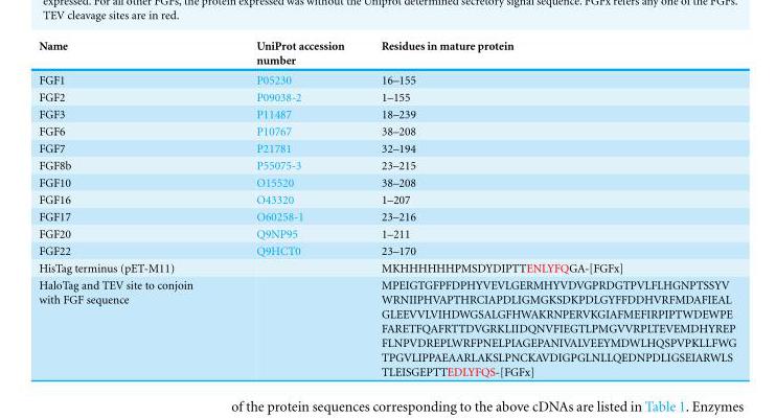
<table><thead><tr><td>Name</td><td>UniProt accession number</td><td>Residues in mature protein</td></tr></thead><tbody><tr><td>FGF1</td><td>P05230</td><td>16–155</td></tr><tr><td>FGF2</td><td>P09038-2</td><td>1–155</td></tr><tr><td>FGF3</td><td>P11487</td><td>18–239</td></tr><tr><td>FGF6</td><td>P10767</td><td>38–208</td></tr><tr><td>FGF7</td><td>P21781</td><td>32–194</td></tr><tr><td>FGF8b</td><td>P55075-3</td><td>23–215</td></tr><tr><td>FGF10</td><td>O15520</td><td>38–208</td></tr><tr><td>FGF16</td><td>O43320</td><td>1–207</td></tr><tr><td>FGF17</td><td>O60258-1</td><td>23–216</td></tr><tr><td>FGF20</td><td>Q9NP95</td><td>1–211</td></tr><tr><td>FGF22</td><td>Q9HCT0</td><td>23–170</td></tr><tr><td>HisTag terminus (pET-M11)</td><td></td><td>MKHHHHHHPMSDYDIPTTENLYFQGA-[FGFx]</td></tr><tr><td>HaloTag and TEV site to conjoin with FGF sequence</td><td></td><td>MPEIGTGFPFDPHYVEVLGERMHYVDVGPRDGTPVLFLHGNPTSSYV WRNIIPHVAPTHRCIAPDLIGMGKSDKPDLGYFFDDHVRFMDAFIEAL GLEEVVLVIHDWGSALGFHWAKRNPERVKGIAFMEFIRPIPTWDEWPE FARETFQAFRTTDVGRKLIIDQNVFIEGTLPMGVVRPLTEVEMDHYREP FLNPVDREPLWRFPNELPIAGEPANIVALVEEYMDWLHQSPVPKLLFWG TPGVLIPPAEAARLAKSLPNCKAVDIGPGLNLLQEDNPDLIGSEIARWLS TLEISGEPTTEDLYFQS-[FGFx]</td></tr></tbody></table>